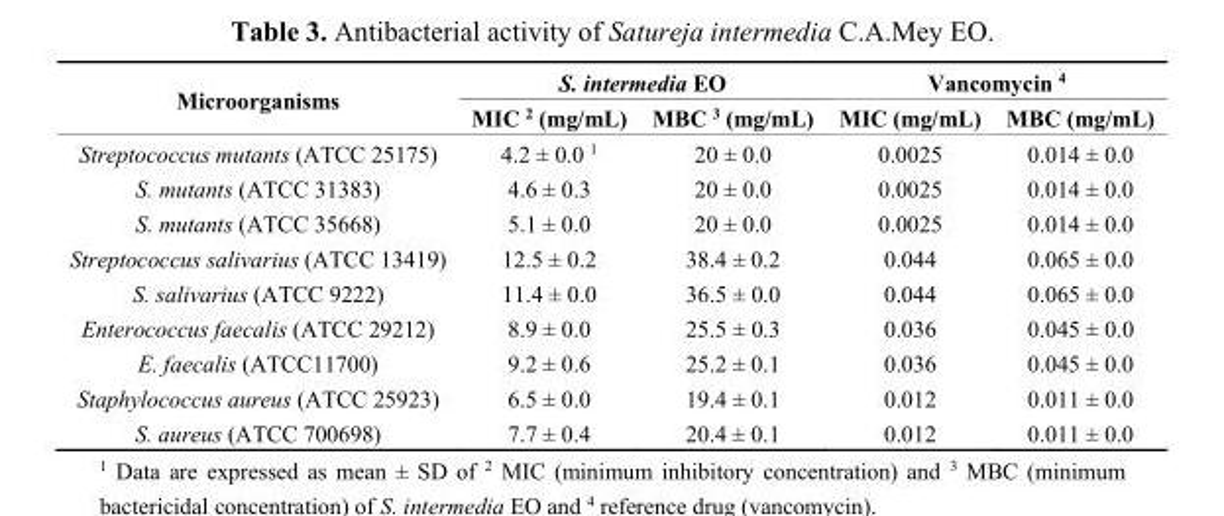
<table><thead><tr><td rowspan="2">Microorganisms</td><td colspan="2">S. intermedia EO</td><td colspan="2">Vancomycin <sup>4</sup></td></tr><tr><td>MIC <sup>2</sup> (mg/mL)</td><td>MBC <sup>3</sup> (mg/mL)</td><td>MIC (mg/mL)</td><td>MBC (mg/mL)</td></tr></thead><tbody><tr><td>Streptococcus mutants (ATCC 25175)</td><td>4.2 ± 0.0 <sup>1</sup></td><td>20 ± 0.0</td><td>0.0025</td><td>0.014 ± 0.0</td></tr><tr><td>S. mutants (ATCC 31383)</td><td>4.6 ± 0.3</td><td>20 ± 0.0</td><td>0.0025</td><td>0.014 ± 0.0</td></tr><tr><td>S. mutants (ATCC 35668)</td><td>5.1 ± 0.0</td><td>20 ± 0.0</td><td>0.0025</td><td>0.014 ± 0.0</td></tr><tr><td>Streptococcus salivarius (ATCC 13419)</td><td>12.5 ± 0.2</td><td>38.4 ± 0.2</td><td>0.044</td><td>0.065 ± 0.0</td></tr><tr><td>S. salivarius (ATCC 9222)</td><td>11.4 ± 0.0</td><td>36.5 ± 0.0</td><td>0.044</td><td>0.065 ± 0.0</td></tr><tr><td>Enterococcus faecalis (ATCC 29212)</td><td>8.9 ± 0.0</td><td>25.5 ± 0.3</td><td>0.036</td><td>0.045 ± 0.0</td></tr><tr><td>E. faecalis (ATCC11700)</td><td>9.2 ± 0.6</td><td>25.2 ± 0.1</td><td>0.036</td><td>0.045 ± 0.0</td></tr><tr><td>Staphylococcus aureus (ATCC 25923)</td><td>6.5 ± 0.0</td><td>19.4 ± 0.1</td><td>0.012</td><td>0.011 ± 0.0</td></tr><tr><td>S. aureus (ATCC 700698)</td><td>7.7 ± 0.4</td><td>20.4 ± 0.1</td><td>0.012</td><td>0.011 ± 0.0</td></tr></tbody></table>